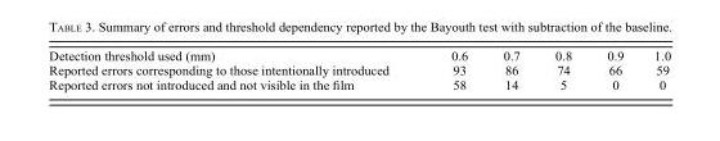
<table><tbody><tr><td>Detection threshold used (mm)</td><td>0.6</td><td>0.7</td><td>0.8</td><td>0.9</td><td>1.0</td></tr><tr><td>Reported errors corresponding to those intentionally introduced</td><td>93</td><td>86</td><td>74</td><td>66</td><td>59</td></tr><tr><td>Reported errors not introduced and not visible in the film</td><td>58</td><td>14</td><td>5</td><td>0</td><td>0</td></tr></tbody></table>